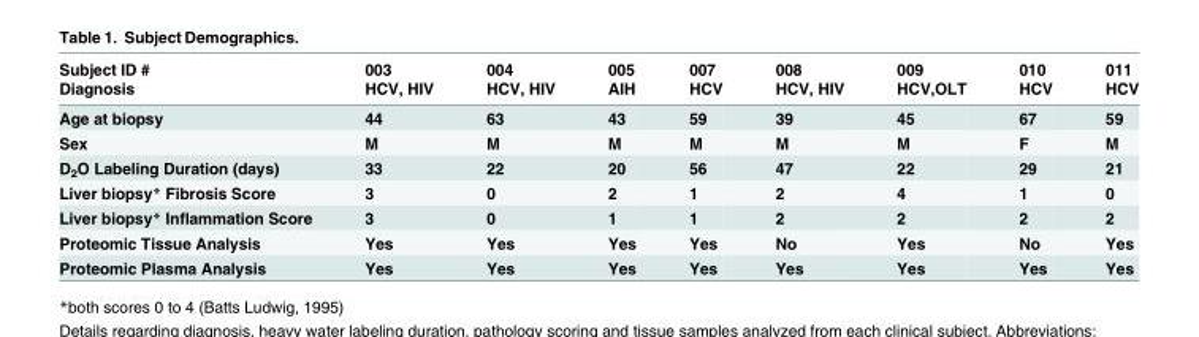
<table><thead><tr><td rowspan="2">Subject ID # Diagnosis</td><td rowspan="2">003 HCV, HIV</td><td rowspan="2">004 HCV, HIV</td><td rowspan="2">005 AIH</td><td rowspan="2">007 HCV</td><td rowspan="2">008 HCV, HIV</td><td rowspan="2">009 HCV,OLT</td><td rowspan="2">010 HCV</td><td rowspan="2">011 HCV</td></tr><tr></tr></thead><tbody><tr><td>Age at biopsy</td><td>44</td><td>63</td><td>43</td><td>59</td><td>39</td><td>45</td><td>67</td><td>59</td></tr><tr><td>Sex</td><td>M</td><td>M</td><td>M</td><td>M</td><td>M</td><td>M</td><td>F</td><td>M</td></tr><tr><td>D<sub>2</sub>O Labeling Duration (days)</td><td>33</td><td>22</td><td>20</td><td>56</td><td>47</td><td>22</td><td>29</td><td>21</td></tr><tr><td>Liver biopsy* Fibrosis Score</td><td>3</td><td>0</td><td>2</td><td>1</td><td>2</td><td>4</td><td>1</td><td>0</td></tr><tr><td>Liver biopsy* Inflammation Score</td><td>3</td><td>0</td><td>1</td><td>1</td><td>2</td><td>2</td><td>2</td><td>2</td></tr><tr><td>Proteomic Tissue Analysis</td><td>Yes</td><td>Yes</td><td>Yes</td><td>Yes</td><td>No</td><td>Yes</td><td>No</td><td>Yes</td></tr><tr><td>Proteomic Plasma Analysis</td><td>Yes</td><td>Yes</td><td>Yes</td><td>Yes</td><td>Yes</td><td>Yes</td><td>Yes</td><td>Yes</td></tr></tbody></table>